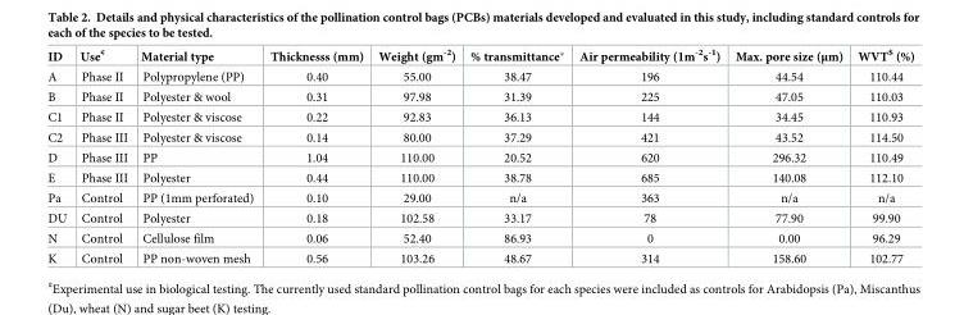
<table><thead><tr><td>ID</td><td>Use<sup>¢</sup></td><td>Material type</td><td>Thicknesss (mm)</td><td>Weight (gm<sup>-2</sup>)</td><td>% transmittance*</td><td>Air permeability (1m<sup>-2</sup>s<sup>-1</sup>)</td><td>Max. pore size (µm)</td><td>WVT<sup>$</sup> (%)</td></tr></thead><tbody><tr><td>A</td><td>Phase II</td><td>Polypropylene (PP)</td><td>0.40</td><td>55.00</td><td>38.47</td><td>196</td><td>44.54</td><td>110.44</td></tr><tr><td>B</td><td>Phase II</td><td>Polyester &amp; wool</td><td>0.31</td><td>97.98</td><td>31.39</td><td>225</td><td>47.05</td><td>110.03</td></tr><tr><td>C1</td><td>Phase II</td><td>Polyester &amp; viscose</td><td>0.22</td><td>92.83</td><td>36.13</td><td>144</td><td>34.45</td><td>110.93</td></tr><tr><td>C2</td><td>Phase III</td><td>Polyester &amp; viscose</td><td>0.14</td><td>80.00</td><td>37.29</td><td>421</td><td>43.52</td><td>114.50</td></tr><tr><td>D</td><td>Phase III</td><td>PP</td><td>1.04</td><td>110.00</td><td>20.52</td><td>620</td><td>296.32</td><td>110.49</td></tr><tr><td>E</td><td>Phase III</td><td>Polyester</td><td>0.44</td><td>110.00</td><td>38.78</td><td>685</td><td>140.08</td><td>112.10</td></tr><tr><td>Pa</td><td>Control</td><td>PP (1mm perforated)</td><td>0.10</td><td>29.00</td><td>n/a</td><td>363</td><td>n/a</td><td>n/a</td></tr><tr><td>DU</td><td>Control</td><td>Polyester</td><td>0.18</td><td>102.58</td><td>33.17</td><td>78</td><td>77.90</td><td>99.90</td></tr><tr><td>N</td><td>Control</td><td>Cellulose film</td><td>0.06</td><td>52.40</td><td>86.93</td><td>0</td><td>0.00</td><td>96.29</td></tr><tr><td>K</td><td>Control</td><td>PP non-woven mesh</td><td>0.56</td><td>103.26</td><td>48.67</td><td>314</td><td>158.60</td><td>102.77</td></tr></tbody></table>